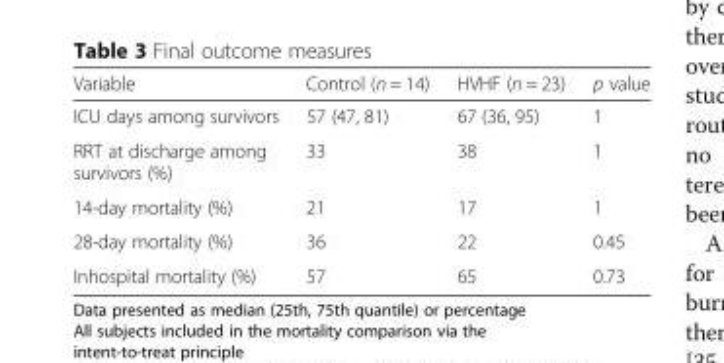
<table><thead><tr><td>Variable</td><td>Control (n = 14)</td><td>HVHF (n = 23)</td><td>p value</td></tr></thead><tbody><tr><td>ICU days among survivors</td><td>57 (47, 81)</td><td>67 (36, 95)</td><td>1</td></tr><tr><td>RRT at discharge among survivors (%)</td><td>33</td><td>38</td><td>1</td></tr><tr><td>14-day mortality (%)</td><td>21</td><td>17</td><td>1</td></tr><tr><td>28-day mortality (%)</td><td>36</td><td>22</td><td>0.45</td></tr><tr><td>Inhospital mortality (%)</td><td>57</td><td>65</td><td>0.73</td></tr></tbody></table>